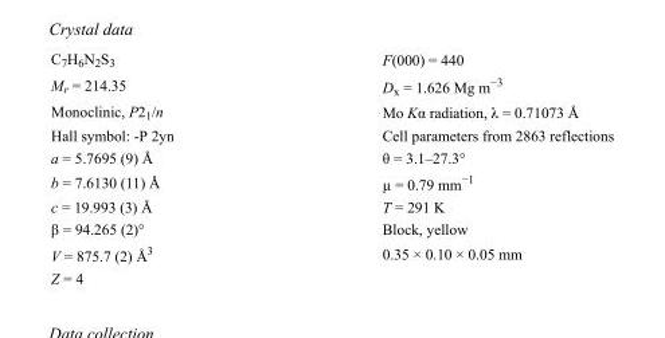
<table><tbody><tr><td>C<sub>7</sub>H<sub>6</sub>N<sub>2</sub>S<sub>3</sub></td><td>F(000) = 440</td></tr><tr><td>M<sub>r</sub> = 214.35</td><td>D<sub>x</sub> = 1.626 Mg m<sup>−3</sup></td></tr><tr><td>Monoclinic, P2<sub>1</sub>/n</td><td>Mo Kα radiation, λ = 0.71073 Å</td></tr><tr><td>Hall symbol: -P 2yn</td><td>Cell parameters from 2863 reflections</td></tr><tr><td>a = 5.7695 (9) Å</td><td>θ = 3.1–27.3°</td></tr><tr><td>b = 7.6130 (11) Å</td><td>µ = 0.79 mm<sup>−1</sup></td></tr><tr><td>c = 19.993 (3) Å</td><td>T = 291 K</td></tr><tr><td>β = 94.265 (2)°</td><td>Block, yellow</td></tr><tr><td>V = 875.7 (2) Å<sup>3</sup></td><td>0.35 × 0.10 × 0.05 mm</td></tr><tr><td>Z = 4</td><td></td></tr></tbody></table>